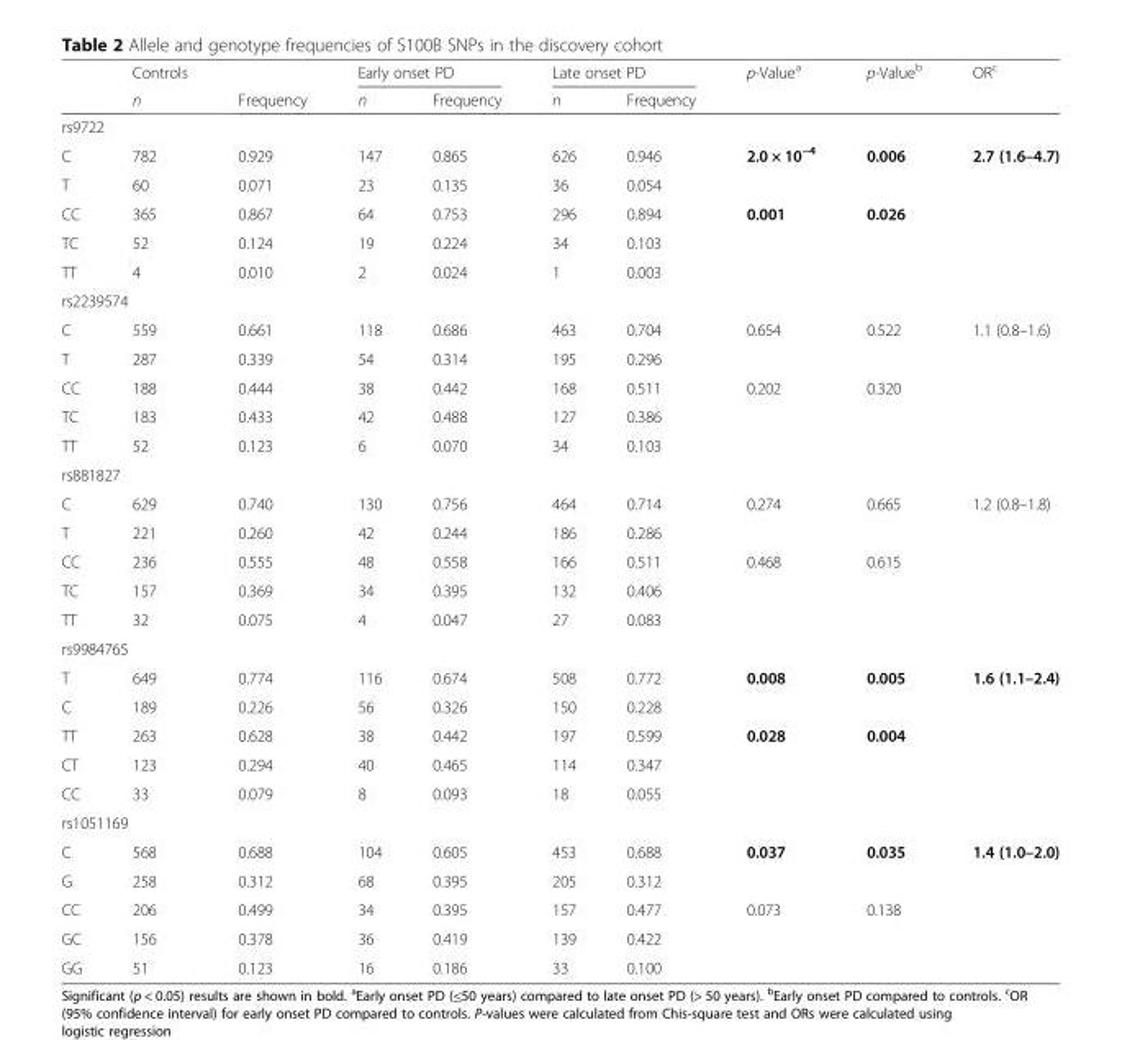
<table><thead><tr><td rowspan="2"></td><td rowspan="2">Controls n</td><td rowspan="2">Frequency</td><td colspan="2">Early onset PD</td><td colspan="2">Late onset PD</td><td rowspan="2">p-Value<sup>a</sup></td><td rowspan="2">p-Value<sup>b</sup></td><td rowspan="2">OR<sup>c</sup></td></tr><tr><td>n</td><td>Frequency</td><td>n</td><td>Frequency</td></tr></thead><tbody><tr><td colspan="10">rs9722</td></tr><tr><td>C</td><td>782</td><td>0.929</td><td>147</td><td>0.865</td><td>626</td><td>0.946</td><td>2.0 × 10<sup>−4</sup></td><td>0.006</td><td>2.7 (1.6–4.7)</td></tr><tr><td>T</td><td>60</td><td>0.071</td><td>23</td><td>0.135</td><td>36</td><td>0.054</td><td></td><td></td><td></td></tr><tr><td>CC</td><td>365</td><td>0.867</td><td>64</td><td>0.753</td><td>296</td><td>0.894</td><td>0.001</td><td>0.026</td><td></td></tr><tr><td>TC</td><td>52</td><td>0.124</td><td>19</td><td>0.224</td><td>34</td><td>0.103</td><td></td><td></td><td></td></tr><tr><td>TT</td><td>4</td><td>0.010</td><td>2</td><td>0.024</td><td>1</td><td>0.003</td><td></td><td></td><td></td></tr><tr><td colspan="10">rs2239574</td></tr><tr><td>C</td><td>559</td><td>0.661</td><td>118</td><td>0.686</td><td>463</td><td>0.704</td><td>0.654</td><td>0.522</td><td>1.1 (0.8–1.6)</td></tr><tr><td>T</td><td>287</td><td>0.339</td><td>54</td><td>0.314</td><td>195</td><td>0.296</td><td></td><td></td><td></td></tr><tr><td>CC</td><td>188</td><td>0.444</td><td>38</td><td>0.442</td><td>168</td><td>0.511</td><td>0.202</td><td>0.320</td><td></td></tr><tr><td>TC</td><td>183</td><td>0.433</td><td>42</td><td>0.488</td><td>127</td><td>0.386</td><td></td><td></td><td></td></tr><tr><td>TT</td><td>52</td><td>0.123</td><td>6</td><td>0.070</td><td>34</td><td>0.103</td><td></td><td></td><td></td></tr><tr><td colspan="10">rs881827</td></tr><tr><td>C</td><td>629</td><td>0.740</td><td>130</td><td>0.756</td><td>464</td><td>0.714</td><td>0.274</td><td>0.665</td><td>1.2 (0.8–1.8)</td></tr><tr><td>T</td><td>221</td><td>0.260</td><td>42</td><td>0.244</td><td>186</td><td>0.286</td><td></td><td></td><td></td></tr><tr><td>CC</td><td>236</td><td>0.555</td><td>48</td><td>0.558</td><td>166</td><td>0.511</td><td>0.468</td><td>0.615</td><td></td></tr><tr><td>TC</td><td>157</td><td>0.369</td><td>34</td><td>0.395</td><td>132</td><td>0.406</td><td></td><td></td><td></td></tr><tr><td>TT</td><td>32</td><td>0.075</td><td>4</td><td>0.047</td><td>27</td><td>0.083</td><td></td><td></td><td></td></tr><tr><td colspan="10">rs9984765</td></tr><tr><td>T</td><td>649</td><td>0.774</td><td>116</td><td>0.674</td><td>508</td><td>0.772</td><td>0.008</td><td>0.005</td><td>1.6 (1.1–2.4)</td></tr><tr><td>C</td><td>189</td><td>0.226</td><td>56</td><td>0.326</td><td>150</td><td>0.228</td><td></td><td></td><td></td></tr><tr><td>TT</td><td>263</td><td>0.628</td><td>38</td><td>0.442</td><td>197</td><td>0.599</td><td>0.028</td><td>0.004</td><td></td></tr><tr><td>CT</td><td>123</td><td>0.294</td><td>40</td><td>0.465</td><td>114</td><td>0.347</td><td></td><td></td><td></td></tr><tr><td>CC</td><td>33</td><td>0.079</td><td>8</td><td>0.093</td><td>18</td><td>0.055</td><td></td><td></td><td></td></tr><tr><td colspan="10">rs1051169</td></tr><tr><td>C</td><td>568</td><td>0.688</td><td>104</td><td>0.605</td><td>453</td><td>0.688</td><td>0.037</td><td>0.035</td><td>1.4 (1.0–2.0)</td></tr><tr><td>G</td><td>258</td><td>0.312</td><td>68</td><td>0.395</td><td>205</td><td>0.312</td><td></td><td></td><td></td></tr><tr><td>CC</td><td>206</td><td>0.499</td><td>34</td><td>0.395</td><td>157</td><td>0.477</td><td>0.073</td><td>0.138</td><td></td></tr><tr><td>GC</td><td>156</td><td>0.378</td><td>36</td><td>0.419</td><td>139</td><td>0.422</td><td></td><td></td><td></td></tr><tr><td>GG</td><td>51</td><td>0.123</td><td>16</td><td>0.186</td><td>33</td><td>0.100</td><td></td><td></td><td></td></tr></tbody></table>